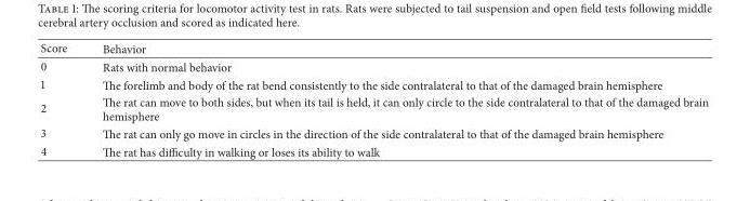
<table><thead><tr><td>Score</td><td>Behavior</td></tr></thead><tbody><tr><td>0</td><td>Rats with normal behavior</td></tr><tr><td>1</td><td>The forelimb and body of the rat bend consistently to the side contralateral to that of the damaged brain hemisphere</td></tr><tr><td>2</td><td>The rat can move to both sides, but when its tail is held, it can only circle to the side contralateral to that of the damaged brain hemisphere</td></tr><tr><td>3</td><td>The rat can only go move in circles in the direction of the side contralateral to that of the damaged brain hemisphere</td></tr><tr><td>4</td><td>The rat has difficulty in walking or loses its ability to walk</td></tr></tbody></table>